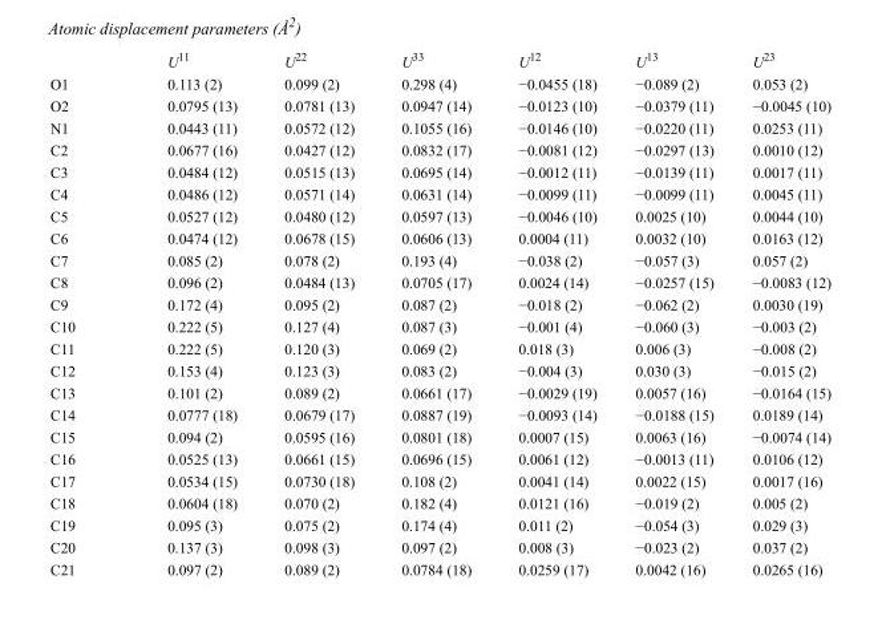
<table><thead><tr><td></td><td>U<sup>11</sup></td><td>U<sup>22</sup></td><td>U<sup>33</sup></td><td>U<sup>12</sup></td><td>U<sup>13</sup></td><td>U<sup>23</sup></td></tr></thead><tbody><tr><td>O1</td><td>0.113 (2)</td><td>0.099 (2)</td><td>0.298 (4)</td><td>−0.0455 (18)</td><td>−0.089 (2)</td><td>0.053 (2)</td></tr><tr><td>O2</td><td>0.0795 (13)</td><td>0.0781 (13)</td><td>0.0947 (14)</td><td>−0.0123 (10)</td><td>−0.0379 (11)</td><td>−0.0045 (10)</td></tr><tr><td>N1</td><td>0.0443 (11)</td><td>0.0572 (12)</td><td>0.1055 (16)</td><td>−0.0146 (10)</td><td>−0.0220 (11)</td><td>0.0253 (11)</td></tr><tr><td>C2</td><td>0.0677 (16)</td><td>0.0427 (12)</td><td>0.0832 (17)</td><td>−0.0081 (12)</td><td>−0.0297 (13)</td><td>0.0010 (12)</td></tr><tr><td>C3</td><td>0.0484 (12)</td><td>0.0515 (13)</td><td>0.0695 (14)</td><td>−0.0012 (11)</td><td>−0.0139 (11)</td><td>0.0017 (11)</td></tr><tr><td>C4</td><td>0.0486 (12)</td><td>0.0571 (14)</td><td>0.0631 (14)</td><td>−0.0099 (11)</td><td>−0.0099 (11)</td><td>0.0045 (11)</td></tr><tr><td>C5</td><td>0.0527 (12)</td><td>0.0480 (12)</td><td>0.0597 (13)</td><td>−0.0046 (10)</td><td>0.0025 (10)</td><td>0.0044 (10)</td></tr><tr><td>C6</td><td>0.0474 (12)</td><td>0.0678 (15)</td><td>0.0606 (13)</td><td>0.0004 (11)</td><td>0.0032 (10)</td><td>0.0163 (12)</td></tr><tr><td>C7</td><td>0.085 (2)</td><td>0.078 (2)</td><td>0.193 (4)</td><td>−0.038 (2)</td><td>−0.057 (3)</td><td>0.057 (2)</td></tr><tr><td>C8</td><td>0.096 (2)</td><td>0.0484 (13)</td><td>0.0705 (17)</td><td>0.0024 (14)</td><td>−0.0257 (15)</td><td>−0.0083 (12)</td></tr><tr><td>C9</td><td>0.172 (4)</td><td>0.095 (2)</td><td>0.087 (2)</td><td>−0.018 (2)</td><td>−0.062 (2)</td><td>0.0030 (19)</td></tr><tr><td>C10</td><td>0.222 (5)</td><td>0.127 (4)</td><td>0.087 (3)</td><td>−0.001 (4)</td><td>−0.060 (3)</td><td>−0.003 (2)</td></tr><tr><td>C11</td><td>0.222 (5)</td><td>0.120 (3)</td><td>0.069 (2)</td><td>0.018 (3)</td><td>0.006 (3)</td><td>−0.008 (2)</td></tr><tr><td>C12</td><td>0.153 (4)</td><td>0.123 (3)</td><td>0.083 (2)</td><td>−0.004 (3)</td><td>0.030 (3)</td><td>−0.015 (2)</td></tr><tr><td>C13</td><td>0.101 (2)</td><td>0.089 (2)</td><td>0.0661 (17)</td><td>−0.0029 (19)</td><td>0.0057 (16)</td><td>−0.0164 (15)</td></tr><tr><td>C14</td><td>0.0777 (18)</td><td>0.0679 (17)</td><td>0.0887 (19)</td><td>−0.0093 (14)</td><td>−0.0188 (15)</td><td>0.0189 (14)</td></tr><tr><td>C15</td><td>0.094 (2)</td><td>0.0595 (16)</td><td>0.0801 (18)</td><td>0.0007 (15)</td><td>0.0063 (16)</td><td>−0.0074 (14)</td></tr><tr><td>C16</td><td>0.0525 (13)</td><td>0.0661 (15)</td><td>0.0696 (15)</td><td>0.0061 (12)</td><td>−0.0013 (11)</td><td>0.0106 (12)</td></tr><tr><td>C17</td><td>0.0534 (15)</td><td>0.0730 (18)</td><td>0.108 (2)</td><td>0.0041 (14)</td><td>0.0022 (15)</td><td>0.0017 (16)</td></tr><tr><td>C18</td><td>0.0604 (18)</td><td>0.070 (2)</td><td>0.182 (4)</td><td>0.0121 (16)</td><td>−0.019 (2)</td><td>0.005 (2)</td></tr><tr><td>C19</td><td>0.095 (3)</td><td>0.075 (2)</td><td>0.174 (4)</td><td>0.011 (2)</td><td>−0.054 (3)</td><td>0.029 (3)</td></tr><tr><td>C20</td><td>0.137 (3)</td><td>0.098 (3)</td><td>0.097 (2)</td><td>0.008 (3)</td><td>−0.023 (2)</td><td>0.037 (2)</td></tr><tr><td>C21</td><td>0.097 (2)</td><td>0.089 (2)</td><td>0.0784 (18)</td><td>0.0259 (17)</td><td>0.0042 (16)</td><td>0.0265 (16)</td></tr></tbody></table>